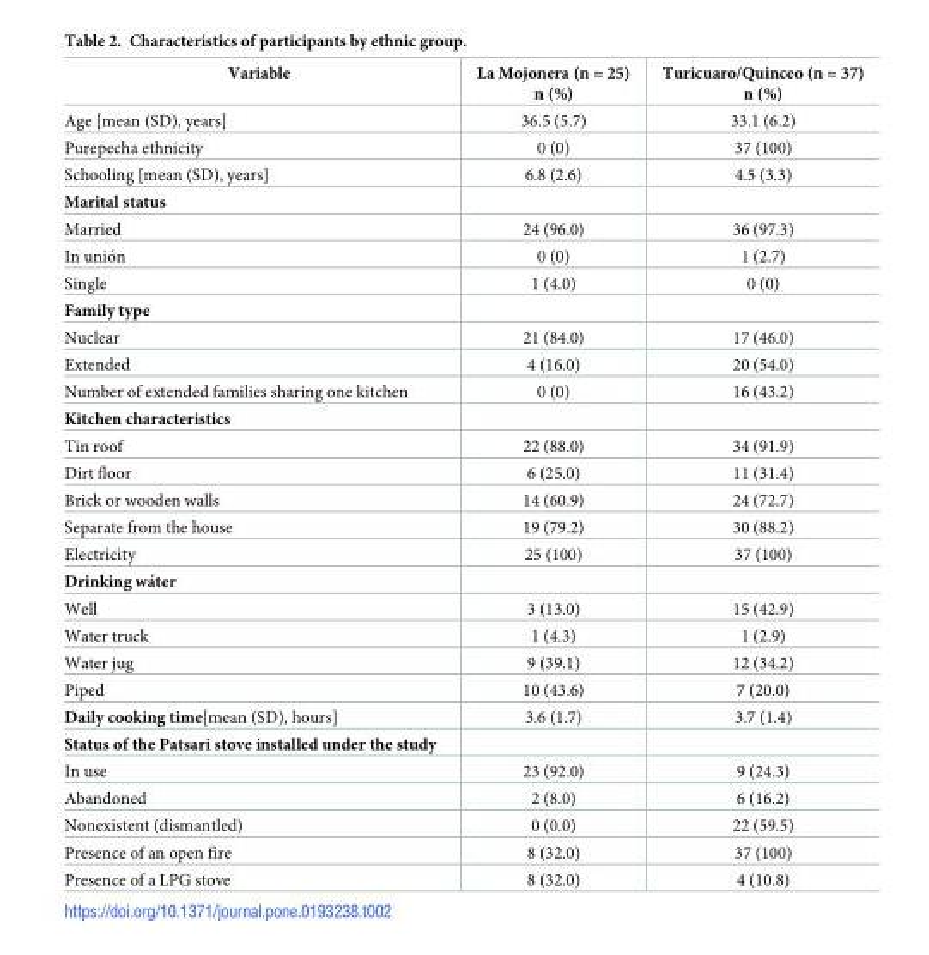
<table><thead><tr><td>Variable</td><td>La Mojonera (n = 25) n (%)</td><td>Turicuaro/Quinceo (n = 37) n (%)</td></tr></thead><tbody><tr><td>Age [mean (SD), years]</td><td>36.5 (5.7)</td><td>33.1 (6.2)</td></tr><tr><td>Purepecha ethnicity</td><td>0 (0)</td><td>37 (100)</td></tr><tr><td>Schooling [mean (SD), years]</td><td>6.8 (2.6)</td><td>4.5 (3.3)</td></tr><tr><td colspan="3">Marital status</td></tr><tr><td>Married</td><td>24 (96.0)</td><td>36 (97.3)</td></tr><tr><td>In unio´n</td><td>0 (0)</td><td>1 (2.7)</td></tr><tr><td>Single</td><td>1 (4.0)</td><td>0 (0)</td></tr><tr><td colspan="3">Family type</td></tr><tr><td>Nuclear</td><td>21 (84.0)</td><td>17 (46.0)</td></tr><tr><td>Extended</td><td>4 (16.0)</td><td>20 (54.0)</td></tr><tr><td>Number of extended families sharing one kitchen</td><td>0 (0)</td><td>16 (43.2)</td></tr><tr><td colspan="3">Kitchen characteristics</td></tr><tr><td>Tin roof</td><td>22 (88.0)</td><td>34 (91.9)</td></tr><tr><td>Dirt floor</td><td>6 (25.0)</td><td>11 (31.4)</td></tr><tr><td>Brick or wooden walls</td><td>14 (60.9)</td><td>24 (72.7)</td></tr><tr><td>Separate from the house</td><td>19 (79.2)</td><td>30 (88.2)</td></tr><tr><td>Electricity</td><td>25 (100)</td><td>37 (100)</td></tr><tr><td colspan="3">Drinking wa´ter</td></tr><tr><td>Well</td><td>3 (13.0)</td><td>15 (42.9)</td></tr><tr><td>Water truck</td><td>1 (4.3)</td><td>1 (2.9)</td></tr><tr><td>Water jug</td><td>9 (39.1)</td><td>12 (34.2)</td></tr><tr><td>Piped</td><td>10 (43.6)</td><td>7 (20.0)</td></tr><tr><td>Daily cooking time[mean (SD), hours]</td><td>3.6 (1.7)</td><td>3.7 (1.4)</td></tr><tr><td colspan="3">Status of the Patsari stove installed under the study</td></tr><tr><td>In use</td><td>23 (92.0)</td><td>9 (24.3)</td></tr><tr><td>Abandoned</td><td>2 (8.0)</td><td>6 (16.2)</td></tr><tr><td>Nonexistent (dismantled)</td><td>0 (0.0)</td><td>22 (59.5)</td></tr><tr><td>Presence of an open fire</td><td>8 (32.0)</td><td>37 (100)</td></tr><tr><td>Presence of a LPG stove</td><td>8 (32.0)</td><td>4 (10.8)</td></tr></tbody></table>